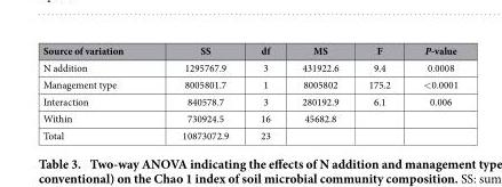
<table><thead><tr><td>Source of variation</td><td>SS</td><td>df</td><td>MS</td><td>F</td><td>P-value</td></tr></thead><tbody><tr><td>N addition</td><td>1295767.9</td><td>3</td><td>431922.6</td><td>9.4</td><td>0.0008</td></tr><tr><td>Management type</td><td>8005801.7</td><td>1</td><td>8005802</td><td>175.2</td><td>&lt; 0.0001</td></tr><tr><td>Interaction</td><td>840578.7</td><td>3</td><td>280192.9</td><td>6.1</td><td>0.006</td></tr><tr><td>Within</td><td>730924.5</td><td>16</td><td>45682.8</td><td></td><td></td></tr><tr><td>Total</td><td>10873072.9</td><td>23</td><td></td><td></td><td></td></tr></tbody></table>